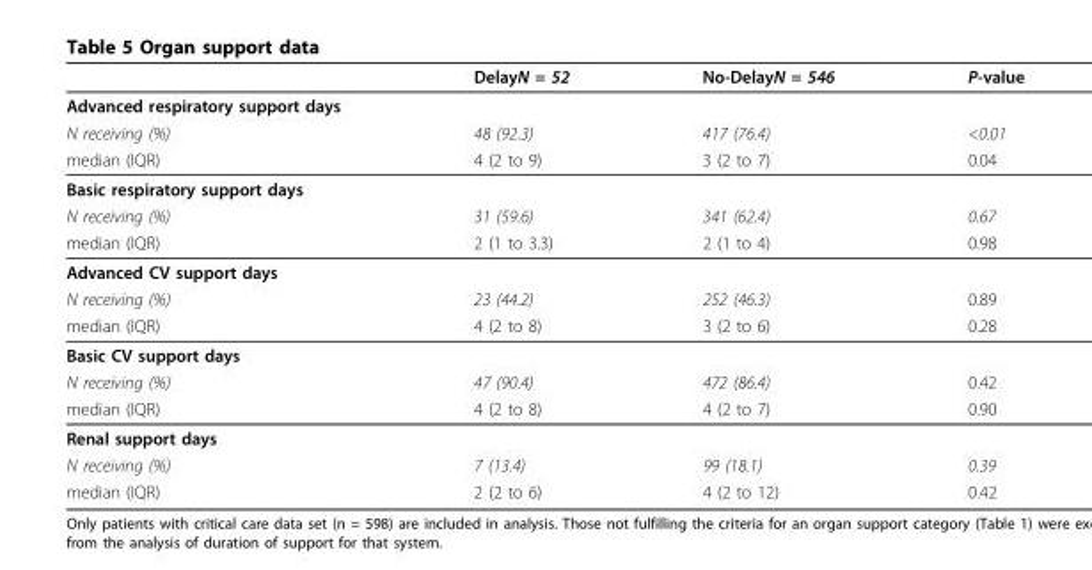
<table><thead><tr><td></td><td>DelayN = 52</td><td>No-DelayN = 546</td><td>P-value</td></tr></thead><tbody><tr><td colspan="4">Advanced respiratory support days</td></tr><tr><td>N receiving (%)</td><td>48 (92.3)</td><td>417 (76.4)</td><td>&lt;0.01</td></tr><tr><td>median (IQR)</td><td>4 (2 to 9)</td><td>3 (2 to 7)</td><td>0.04</td></tr><tr><td colspan="4">Basic respiratory support days</td></tr><tr><td>N receiving (%)</td><td>31 (59.6)</td><td>341 (62.4)</td><td>0.67</td></tr><tr><td>median (IQR)</td><td>2 (1 to 3.3)</td><td>2 (1 to 4)</td><td>0.98</td></tr><tr><td colspan="4">Advanced CV support days</td></tr><tr><td>N receiving (%)</td><td>23 (44.2)</td><td>252 (46.3)</td><td>0.89</td></tr><tr><td>median (IQR)</td><td>4 (2 to 8)</td><td>3 (2 to 6)</td><td>0.28</td></tr><tr><td colspan="4">Basic CV support days</td></tr><tr><td>N receiving (%)</td><td>47 (90.4)</td><td>472 (86.4)</td><td>0.42</td></tr><tr><td>median (IQR)</td><td>4 (2 to 8)</td><td>4 (2 to 7)</td><td>0.90</td></tr><tr><td colspan="4">Renal support days</td></tr><tr><td>N receiving (%)</td><td>7 (13.4)</td><td>99 (18.1)</td><td>0.39</td></tr><tr><td>median (IQR)</td><td>2 (2 to 6)</td><td>4 (2 to 12)</td><td>0.42</td></tr></tbody></table>